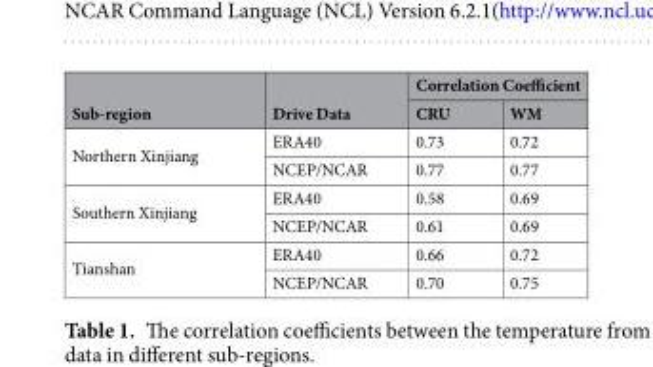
<table><thead><tr><td rowspan="2">Sub-region</td><td rowspan="2">Drive Data</td><td colspan="2">Correlation Coefficient</td></tr><tr><td>CRU</td><td>WM</td></tr></thead><tbody><tr><td rowspan="2">Northern Xinjiang</td><td>ERA40</td><td>0.73</td><td>0.72</td></tr><tr><td>NCEP/NCAR</td><td>0.77</td><td>0.77</td></tr><tr><td rowspan="2">Southern Xinjiang</td><td>ERA40</td><td>0.58</td><td>0.69</td></tr><tr><td>NCEP/NCAR</td><td>0.61</td><td>0.69</td></tr><tr><td rowspan="2">Tianshan</td><td>ERA40</td><td>0.66</td><td>0.72</td></tr><tr><td>NCEP/NCAR</td><td>0.70</td><td>0.75</td></tr></tbody></table>